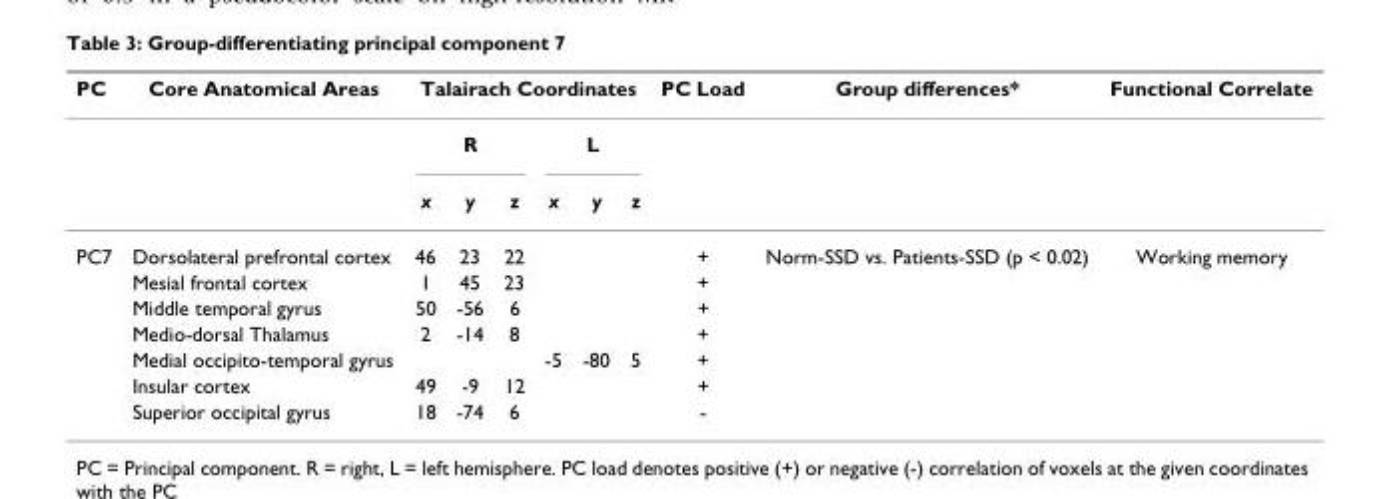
<table><thead><tr><td rowspan="3">PC</td><td rowspan="3">Core Anatomical Areas</td><td colspan="6">Talairach Coordinates</td><td rowspan="3">PC Load</td><td rowspan="3">Group differences*</td><td rowspan="3">Functional Correlate</td></tr><tr><td colspan="3">R</td><td colspan="3">L</td></tr><tr><td>x</td><td>y</td><td>z</td><td>x</td><td>y</td><td>z</td></tr></thead><tbody><tr><td rowspan="7">PC7</td><td>Dorsolateral prefrontal cortex</td><td>46</td><td>23</td><td>22</td><td></td><td></td><td></td><td>+</td><td>Norm-SSD vs. Patients-SSD (p &lt; 0.02)</td><td>Working memory</td></tr><tr><td>Mesial frontal cortex</td><td>1</td><td>45</td><td>23</td><td></td><td></td><td></td><td>+</td><td></td><td></td></tr><tr><td>Middle temporal gyrus</td><td>50</td><td>-56</td><td>6</td><td></td><td></td><td></td><td>+</td><td></td><td></td></tr><tr><td>Medio-dorsal Thalamus</td><td>2</td><td>-14</td><td>8</td><td></td><td></td><td></td><td>+</td><td></td><td></td></tr><tr><td>Medial occipito-temporal gyrus</td><td></td><td></td><td></td><td>-5</td><td>-80</td><td>5</td><td>+</td><td></td><td></td></tr><tr><td>Insular cortex</td><td>49</td><td>-9</td><td>12</td><td></td><td></td><td></td><td>+</td><td></td><td></td></tr><tr><td>Superior occipital gyrus</td><td>18</td><td>-74</td><td>6</td><td></td><td></td><td></td><td>-</td><td></td><td></td></tr></tbody></table>